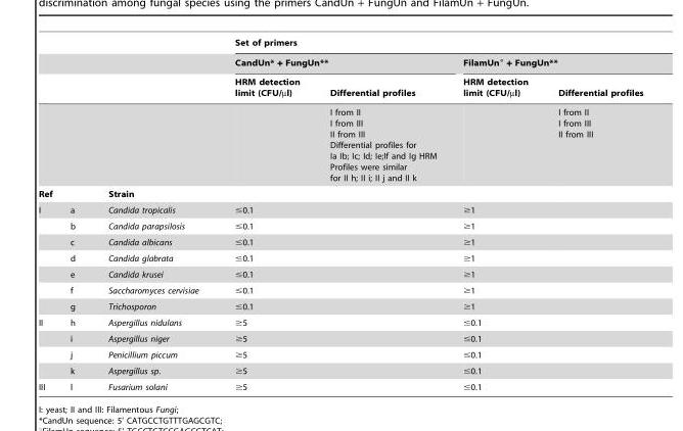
<table><thead><tr><td rowspan="3"></td><td rowspan="3"></td><td rowspan="3"></td><td colspan="4">Set of primers</td></tr><tr><td colspan="2">CandUn* + FungUn**</td><td colspan="2">FilamUn° + FungUn**</td></tr><tr><td>HRM detection limit (CFU/µl)</td><td>Differential profiles</td><td>HRM detection limit (CFU/µl)</td><td>Differential profiles</td></tr></thead><tbody><tr><td colspan="2"></td><td></td><td></td><td>I from II I from III II from III Differential profiles for Ia Ib; Ic; Id; Ie;If and Ig HRM Profiles were similar for II h; II i; II j and II k</td><td></td><td>I from II I from III II from III</td></tr><tr><td colspan="2">Ref</td><td>Strain</td><td></td><td></td><td></td><td></td></tr><tr><td rowspan="7">I</td><td>a</td><td>Candida tropicalis</td><td>≤0.1</td><td></td><td>≥1</td><td></td></tr><tr><td>b</td><td>Candida parapsilosis</td><td>≤0.1</td><td></td><td>≥1</td><td></td></tr><tr><td>c</td><td>Candida albicans</td><td>≤0.1</td><td></td><td>≥1</td><td></td></tr><tr><td>d</td><td>Candida glabrata</td><td>≤0.1</td><td></td><td>≥1</td><td></td></tr><tr><td>e</td><td>Candida krusei</td><td>≤0.1</td><td></td><td>≥1</td><td></td></tr><tr><td>f</td><td>Saccharomyces cervisiae</td><td>≤0.1</td><td></td><td>≥1</td><td></td></tr><tr><td>g</td><td>Trichosporon</td><td>≤0.1</td><td></td><td>≥1</td><td></td></tr><tr><td rowspan="4">II</td><td>h</td><td>Aspergillus nidulans</td><td>≥5</td><td></td><td>≤0.1</td><td></td></tr><tr><td>i</td><td>Aspergillus niger</td><td>≥5</td><td></td><td>≤0.1</td><td></td></tr><tr><td>j</td><td>Penicillium piccum</td><td>≥5</td><td></td><td>≤0.1</td><td></td></tr><tr><td>k</td><td>Aspergillus sp.</td><td>≥5</td><td></td><td>≤0.1</td><td></td></tr><tr><td>III</td><td>l</td><td>Fusarium solani</td><td>≥5</td><td></td><td>≤0.1</td><td></td></tr></tbody></table>